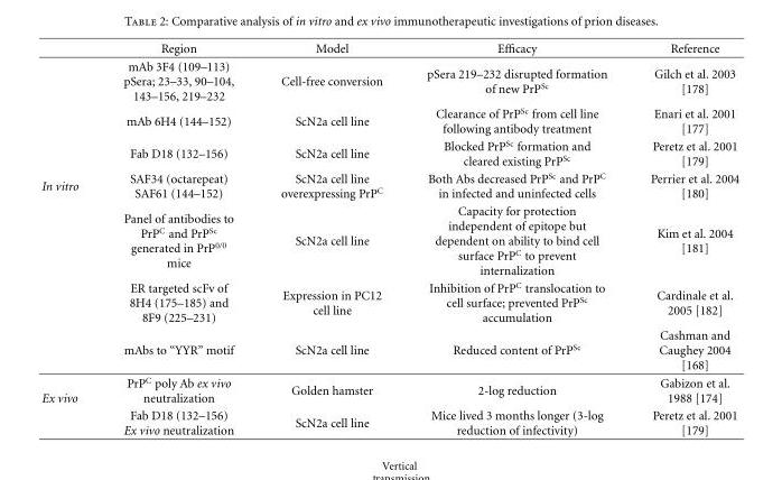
<table><thead><tr><td></td><td>Region</td><td>Model</td><td>Efficacy</td><td>Reference</td></tr></thead><tbody><tr><td></td><td>mAb 3F4 (109–113) pSera; 23–33, 90–104, 143–156, 219–232</td><td>Cell-free conversion</td><td>pSera 219–232 disrupted formation of new PrP<sup>Sc</sup></td><td>Gilch et al. 2003 [178]</td></tr><tr><td></td><td>mAb 6H4 (144–152)</td><td>ScN2a cell line</td><td>Clearance of PrP<sup>Sc</sup> from cell line following antibody treatment</td><td>Enari et al. 2001 [177]</td></tr><tr><td></td><td>Fab D18 (132–156)</td><td>ScN2a cell line</td><td>Blocked PrP<sup>Sc</sup> formation and cleared existing PrP<sup>Sc</sup></td><td>Peretz et al. 2001 [179]</td></tr><tr><td rowspan="4">In vitro</td><td>SAF34 (octarepeat) SAF61 (144–152)</td><td>ScN2a cell line overexpressing PrP<sup>C</sup></td><td>Both Abs decreased PrP<sup>Sc</sup> and PrP<sup>C</sup> in infected and uninfected cells</td><td>Perrier et al. 2004 [180]</td></tr><tr><td>Panel of antibodies to PrP<sup>C</sup> and PrP<sup>Sc</sup> generated in PrP<sup>0/0</sup> mice</td><td>ScN2a cell line</td><td>Capacity for protection independent of epitope but dependent on ability to bind cell surface PrP<sup>C</sup> to prevent internalization</td><td>Kim et al. 2004 [181]</td></tr><tr><td>ER targeted scFv of 8H4 (175–185) and 8F9 (225–231)</td><td>Expression in PC12 cell line</td><td>Inhibition of PrP<sup>C</sup> translocation to cell surface; prevented PrP<sup>Sc</sup> accumulation</td><td>Cardinale et al. 2005 [182]</td></tr><tr><td>mAbs to “YYR” motif</td><td>ScN2a cell line</td><td>Reduced content of PrP<sup>Sc</sup></td><td>Cashman and Caughey 2004 [168]</td></tr><tr><td rowspan="2">Ex vivo</td><td>PrP<sup>C</sup> poly Ab ex vivo neutralization</td><td>Golden hamster</td><td>2-log reduction</td><td>Gabizon et al. 1988 [174]</td></tr><tr><td>Fab D18 (132–156) Ex vivo neutralization</td><td>ScN2a cell line</td><td>Mice lived 3 months longer (3-log reduction of infectivity)</td><td>Peretz et al. 2001 [179]</td></tr></tbody></table>